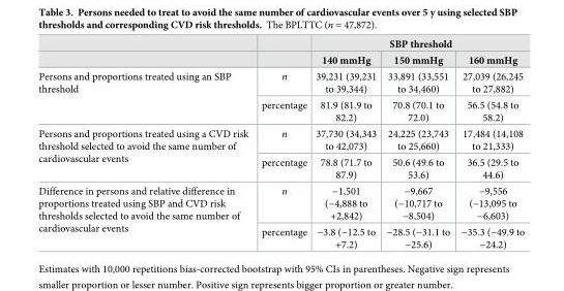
<table><thead><tr><td rowspan="2"></td><td rowspan="2"></td><td colspan="3">SBP threshold</td></tr><tr><td>140 mmHg</td><td>150 mmHg</td><td>160 mmHg</td></tr></thead><tbody><tr><td rowspan="2">Persons and proportions treated using an SBP threshold</td><td>n</td><td>39,231 (39,231 to 39,344)</td><td>33,891 (33,551 to 34,460)</td><td>27,039 (26,245 to 27,882)</td></tr><tr><td>percentage</td><td>81.9 (81.9 to 82.2)</td><td>70.8 (70.1 to 72.0)</td><td>56.5 (54.8 to 58.2)</td></tr><tr><td rowspan="2">Persons and proportions treated using a CVD risk threshold selected to avoid the same number of cardiovascular events</td><td>n</td><td>37,730 (34,343 to 42,073)</td><td>24,225 (23,743 to 25,660)</td><td>17,484 (14,108 to 21,333)</td></tr><tr><td>percentage</td><td>78.8 (71.7 to 87.9)</td><td>50.6 (49.6 to 53.6)</td><td>36.5 (29.5 to 44.6)</td></tr><tr><td rowspan="2">Difference in persons and relative difference in proportions treated using SBP and CVD risk thresholds selected to avoid the same number of cardiovascular events</td><td>n</td><td>−1,501 (−4,888 to +2,842)</td><td>−9,667 (−10,717 to −8,504)</td><td>−9,556 (−13,095 to −6,603)</td></tr><tr><td>percentage</td><td>−3.8 (−12.5 to +7.2)</td><td>−28.5 (−31.1 to −25.6)</td><td>−35.3 (−49.9 to −24.2)</td></tr></tbody></table>